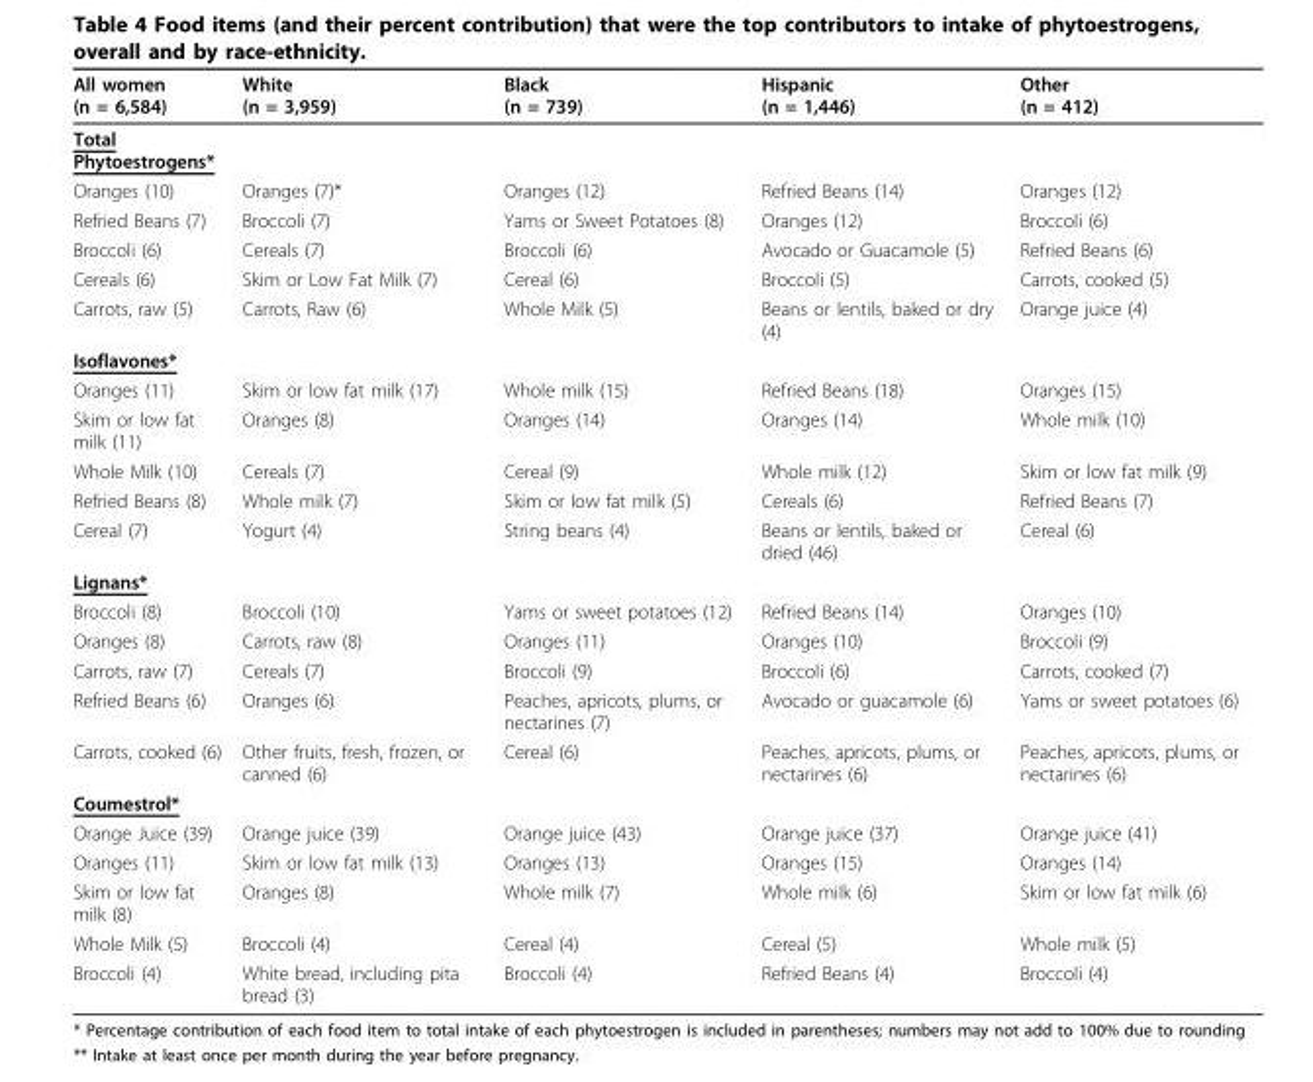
<table><thead><tr><td>All women (n = 6,584)</td><td>White (n = 3,959)</td><td>Black (n = 739)</td><td>Hispanic (n = 1,446)</td><td>Other (n = 412)</td></tr></thead><tbody><tr><td colspan="5">Total Phytoestrogens*</td></tr><tr><td>Oranges (10)</td><td>Oranges (7)*</td><td>Oranges (12)</td><td>Refried Beans (14)</td><td>Oranges (12)</td></tr><tr><td>Refried Beans (7)</td><td>Broccoli (7)</td><td>Yams or Sweet Potatoes (8)</td><td>Oranges (12)</td><td>Broccoli (6)</td></tr><tr><td>Broccoli (6)</td><td>Cereals (7)</td><td>Broccoli (6)</td><td>Avocado or Guacamole (5)</td><td>Refried Beans (6)</td></tr><tr><td>Cereals (6)</td><td>Skim or Low Fat Milk (7)</td><td>Cereal (6)</td><td>Broccoli (5)</td><td>Carrots, cooked (5)</td></tr><tr><td>Carrots, raw (5)</td><td>Carrots, Raw (6)</td><td>Whole Milk (5)</td><td>Beans or lentils, baked or dry (4)</td><td>Orange juice (4)</td></tr><tr><td colspan="5">Isoflavones*</td></tr><tr><td>Oranges (11)</td><td>Skim or low fat milk (17)</td><td>Whole milk (15)</td><td>Refried Beans (18)</td><td>Oranges (15)</td></tr><tr><td>Skim or low fat milk (11)</td><td>Oranges (8)</td><td>Oranges (14)</td><td>Oranges (14)</td><td>Whole milk (10)</td></tr><tr><td>Whole Milk (10)</td><td>Cereals (7)</td><td>Cereal (9)</td><td>Whole milk (12)</td><td>Skim or low fat milk (9)</td></tr><tr><td>Refried Beans (8)</td><td>Whole milk (7)</td><td>Skim or low fat milk (5)</td><td>Cereals (6)</td><td>Refried Beans (7)</td></tr><tr><td>Cereal (7)</td><td>Yogurt (4)</td><td>String beans (4)</td><td>Beans or lentils, baked or dried (46)</td><td>Cereal (6)</td></tr><tr><td colspan="5">Lignans*</td></tr><tr><td>Broccoli (8)</td><td>Broccoli (10)</td><td>Yams or sweet potatoes (12)</td><td>Refried Beans (14)</td><td>Oranges (10)</td></tr><tr><td>Oranges (8)</td><td>Carrots, raw (8)</td><td>Oranges (11)</td><td>Oranges (10)</td><td>Broccoli (9)</td></tr><tr><td>Carrots, raw (7)</td><td>Cereals (7)</td><td>Broccoli (9)</td><td>Broccoli (6)</td><td>Carrots, cooked (7)</td></tr><tr><td>Refried Beans (6)</td><td>Oranges (6)</td><td>Peaches, apricots, plums, or nectarines (7)</td><td>Avocado or guacamole (6)</td><td>Yams or sweet potatoes (6)</td></tr><tr><td>Carrots, cooked (6)</td><td>Other fruits, fresh, frozen, or canned (6)</td><td>Cereal (6)</td><td>Peaches, apricots, plums, or nectarines (6)</td><td>Peaches, apricots, plums, or nectarines (6)</td></tr><tr><td colspan="5">Coumestrol*</td></tr><tr><td>Orange Juice (39)</td><td>Orange juice (39)</td><td>Orange juice (43)</td><td>Orange juice (37)</td><td>Orange juice (41)</td></tr><tr><td>Oranges (11)</td><td>Skim or low fat milk (13)</td><td>Oranges (13)</td><td>Oranges (15)</td><td>Oranges (14)</td></tr><tr><td>Skim or low fat milk (8)</td><td>Oranges (8)</td><td>Whole milk (7)</td><td>Whole milk (6)</td><td>Skim or low fat milk (6)</td></tr><tr><td>Whole Milk (5)</td><td>Broccoli (4)</td><td>Cereal (4)</td><td>Cereal (5)</td><td>Whole milk (5)</td></tr><tr><td>Broccoli (4)</td><td>White bread, including pita bread (3)</td><td>Broccoli (4)</td><td>Refried Beans (4)</td><td>Broccoli (4)</td></tr></tbody></table>